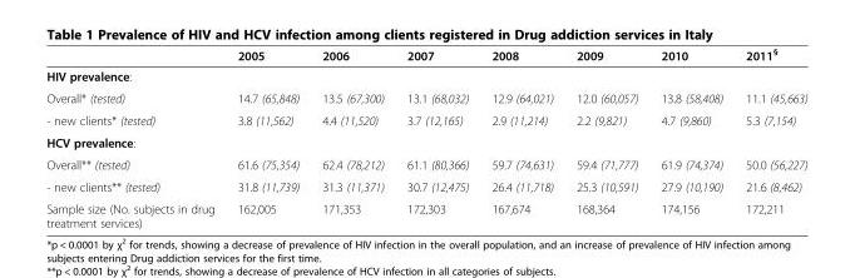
<table><thead><tr><td></td><td>2005</td><td>2006</td><td>2007</td><td>2008</td><td>2009</td><td>2010</td><td>2011<sup>§</sup></td></tr></thead><tbody><tr><td colspan="8">HIV prevalence:</td></tr><tr><td>Overall* (tested)</td><td>14.7 (65,848)</td><td>13.5 (67,300)</td><td>13.1 (68,032)</td><td>12.9 (64,021)</td><td>12.0 (60,057)</td><td>13.8 (58,408)</td><td>11.1 (45,663)</td></tr><tr><td>- new clients* (tested)</td><td>3.8 (11,562)</td><td>4.4 (11,520)</td><td>3.7 (12,165)</td><td>2.9 (11,214)</td><td>2.2 (9,821)</td><td>4.7 (9,860)</td><td>5.3 (7,154)</td></tr><tr><td colspan="8">HCV prevalence:</td></tr><tr><td>Overall** (tested)</td><td>61.6 (75,354)</td><td>62.4 (78,212)</td><td>61.1 (80,366)</td><td>59.7 (74,631)</td><td>59.4 (71,777)</td><td>61.9 (74,374)</td><td>50.0 (56,227)</td></tr><tr><td>- new clients** (tested)</td><td>31.8 (11,739)</td><td>31.3 (11,371)</td><td>30.7 (12,475)</td><td>26.4 (11,718)</td><td>25.3 (10,591)</td><td>27.9 (10,190)</td><td>21.6 (8,462)</td></tr><tr><td>Sample size (No. subjects in drug treatment services)</td><td>162,005</td><td>171,353</td><td>172,303</td><td>167,674</td><td>168,364</td><td>174,156</td><td>172,211</td></tr></tbody></table>